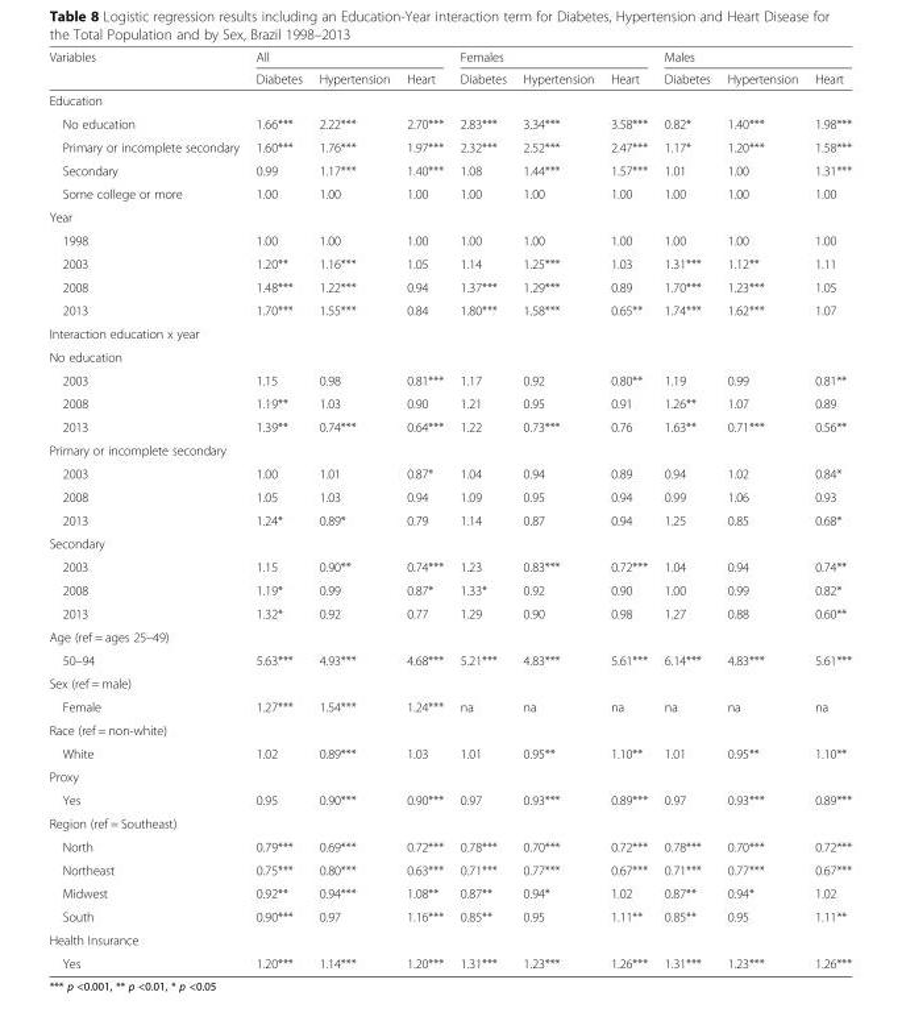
<table><thead><tr><td rowspan="2">Variables</td><td colspan="3">All</td><td colspan="3">Females</td><td colspan="3">Males</td></tr><tr><td>Diabetes</td><td>Hypertension</td><td>Heart</td><td>Diabetes</td><td>Hypertension</td><td>Heart</td><td>Diabetes</td><td>Hypertension</td><td>Heart</td></tr></thead><tbody><tr><td colspan="10">Education</td></tr><tr><td>No education</td><td>1.66***</td><td>2.22***</td><td>2.70***</td><td>2.83***</td><td>3.34***</td><td>3.58***</td><td>0.82*</td><td>1.40***</td><td>1.98***</td></tr><tr><td>Primary or incomplete secondary</td><td>1.60***</td><td>1.76***</td><td>1.97***</td><td>2.32***</td><td>2.52***</td><td>2.47***</td><td>1.17*</td><td>1.20***</td><td>1.58***</td></tr><tr><td>Secondary</td><td>0.99</td><td>1.17***</td><td>1.40***</td><td>1.08</td><td>1.44***</td><td>1.57***</td><td>1.01</td><td>1.00</td><td>1.31***</td></tr><tr><td>Some college or more</td><td>1.00</td><td>1.00</td><td>1.00</td><td>1.00</td><td>1.00</td><td>1.00</td><td>1.00</td><td>1.00</td><td>1.00</td></tr><tr><td colspan="10">Year</td></tr><tr><td>1998</td><td>1.00</td><td>1.00</td><td>1.00</td><td>1.00</td><td>1.00</td><td>1.00</td><td>1.00</td><td>1.00</td><td>1.00</td></tr><tr><td>2003</td><td>1.20**</td><td>1.16***</td><td>1.05</td><td>1.14</td><td>1.25***</td><td>1.03</td><td>1.31***</td><td>1.12**</td><td>1.11</td></tr><tr><td>2008</td><td>1.48***</td><td>1.22***</td><td>0.94</td><td>1.37***</td><td>1.29***</td><td>0.89</td><td>1.70***</td><td>1.23***</td><td>1.05</td></tr><tr><td>2013</td><td>1.70***</td><td>1.55***</td><td>0.84</td><td>1.80***</td><td>1.58***</td><td>0.65**</td><td>1.74***</td><td>1.62***</td><td>1.07</td></tr><tr><td colspan="10">Interaction education x year</td></tr><tr><td colspan="10">No education</td></tr><tr><td>2003</td><td>1.15</td><td>0.98</td><td>0.81***</td><td>1.17</td><td>0.92</td><td>0.80**</td><td>1.19</td><td>0.99</td><td>0.81**</td></tr><tr><td>2008</td><td>1.19**</td><td>1.03</td><td>0.90</td><td>1.21</td><td>0.95</td><td>0.91</td><td>1.26**</td><td>1.07</td><td>0.89</td></tr><tr><td>2013</td><td>1.39**</td><td>0.74***</td><td>0.64***</td><td>1.22</td><td>0.73***</td><td>0.76</td><td>1.63**</td><td>0.71***</td><td>0.56**</td></tr><tr><td colspan="10">Primary or incomplete secondary</td></tr><tr><td>2003</td><td>1.00</td><td>1.01</td><td>0.87*</td><td>1.04</td><td>0.94</td><td>0.89</td><td>0.94</td><td>1.02</td><td>0.84*</td></tr><tr><td>2008</td><td>1.05</td><td>1.03</td><td>0.94</td><td>1.09</td><td>0.95</td><td>0.94</td><td>0.99</td><td>1.06</td><td>0.93</td></tr><tr><td>2013</td><td>1.24*</td><td>0.89*</td><td>0.79</td><td>1.14</td><td>0.87</td><td>0.94</td><td>1.25</td><td>0.85</td><td>0.68*</td></tr><tr><td colspan="10">Secondary</td></tr><tr><td>2003</td><td>1.15</td><td>0.90**</td><td>0.74***</td><td>1.23</td><td>0.83***</td><td>0.72***</td><td>1.04</td><td>0.94</td><td>0.74**</td></tr><tr><td>2008</td><td>1.19*</td><td>0.99</td><td>0.87*</td><td>1.33*</td><td>0.92</td><td>0.90</td><td>1.00</td><td>0.99</td><td>0.82*</td></tr><tr><td>2013</td><td>1.32*</td><td>0.92</td><td>0.77</td><td>1.29</td><td>0.90</td><td>0.98</td><td>1.27</td><td>0.88</td><td>0.60**</td></tr><tr><td colspan="10">Age (ref = ages 25–49)</td></tr><tr><td>50–94</td><td>5.63***</td><td>4.93***</td><td>4.68***</td><td>5.21***</td><td>4.83***</td><td>5.61***</td><td>6.14***</td><td>4.83***</td><td>5.61***</td></tr><tr><td colspan="10">Sex (ref = male)</td></tr><tr><td>Female</td><td>1.27***</td><td>1.54***</td><td>1.24***</td><td>na</td><td>na</td><td>na</td><td>na</td><td>na</td><td>na</td></tr><tr><td colspan="10">Race (ref = non-white)</td></tr><tr><td>White</td><td>1.02</td><td>0.89***</td><td>1.03</td><td>1.01</td><td>0.95**</td><td>1.10**</td><td>1.01</td><td>0.95**</td><td>1.10**</td></tr><tr><td colspan="10">Proxy</td></tr><tr><td>Yes</td><td>0.95</td><td>0.90***</td><td>0.90***</td><td>0.97</td><td>0.93***</td><td>0.89***</td><td>0.97</td><td>0.93***</td><td>0.89***</td></tr><tr><td colspan="10">Region (ref = Southeast)</td></tr><tr><td>North</td><td>0.79***</td><td>0.69***</td><td>0.72***</td><td>0.78***</td><td>0.70***</td><td>0.72***</td><td>0.78***</td><td>0.70***</td><td>0.72***</td></tr><tr><td>Northeast</td><td>0.75***</td><td>0.80***</td><td>0.63***</td><td>0.71***</td><td>0.77***</td><td>0.67***</td><td>0.71***</td><td>0.77***</td><td>0.67***</td></tr><tr><td>Midwest</td><td>0.92**</td><td>0.94***</td><td>1.08**</td><td>0.87**</td><td>0.94*</td><td>1.02</td><td>0.87**</td><td>0.94*</td><td>1.02</td></tr><tr><td>South</td><td>0.90***</td><td>0.97</td><td>1.16***</td><td>0.85**</td><td>0.95</td><td>1.11**</td><td>0.85**</td><td>0.95</td><td>1.11**</td></tr><tr><td colspan="10">Health Insurance</td></tr><tr><td>Yes</td><td>1.20***</td><td>1.14***</td><td>1.20***</td><td>1.31***</td><td>1.23***</td><td>1.26***</td><td>1.31***</td><td>1.23***</td><td>1.26***</td></tr></tbody></table>